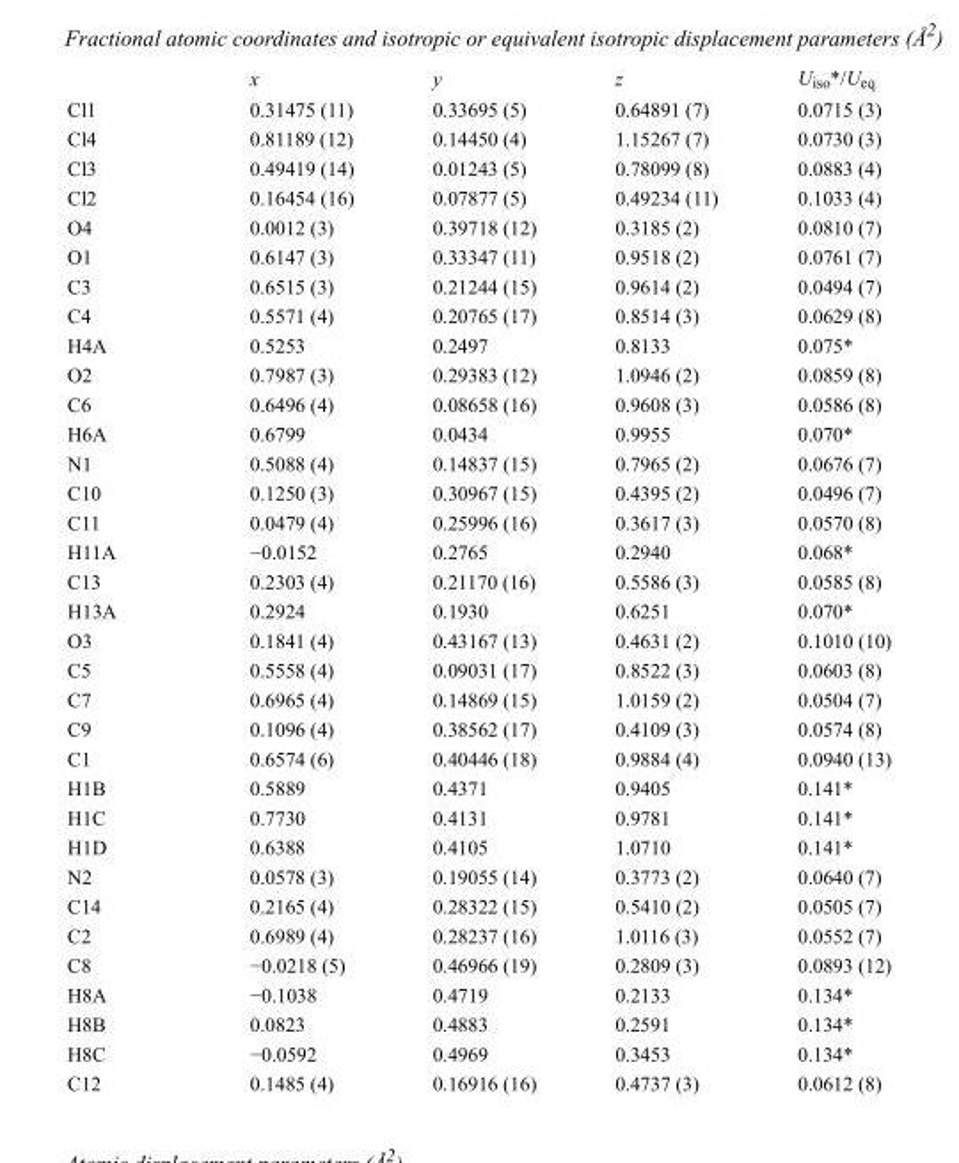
<table><thead><tr><td></td><td>x</td><td>y</td><td>z</td><td>U<sub>iso</sub>*/U<sub>eq</sub></td></tr></thead><tbody><tr><td>Cl1</td><td>0.31475 (11)</td><td>0.33695 (5)</td><td>0.64891 (7)</td><td>0.0715 (3)</td></tr><tr><td>Cl4</td><td>0.81189 (12)</td><td>0.14450 (4)</td><td>1.15267 (7)</td><td>0.0730 (3)</td></tr><tr><td>Cl3</td><td>0.49419 (14)</td><td>0.01243 (5)</td><td>0.78099 (8)</td><td>0.0883 (4)</td></tr><tr><td>Cl2</td><td>0.16454 (16)</td><td>0.07877 (5)</td><td>0.49234 (11)</td><td>0.1033 (4)</td></tr><tr><td>O4</td><td>0.0012 (3)</td><td>0.39718 (12)</td><td>0.3185 (2)</td><td>0.0810 (7)</td></tr><tr><td>O1</td><td>0.6147 (3)</td><td>0.33347 (11)</td><td>0.9518 (2)</td><td>0.0761 (7)</td></tr><tr><td>C3</td><td>0.6515 (3)</td><td>0.21244 (15)</td><td>0.9614 (2)</td><td>0.0494 (7)</td></tr><tr><td>C4</td><td>0.5571 (4)</td><td>0.20765 (17)</td><td>0.8514 (3)</td><td>0.0629 (8)</td></tr><tr><td>H4A</td><td>0.5253</td><td>0.2497</td><td>0.8133</td><td>0.075*</td></tr><tr><td>O2</td><td>0.7987 (3)</td><td>0.29383 (12)</td><td>1.0946 (2)</td><td>0.0859 (8)</td></tr><tr><td>C6</td><td>0.6496 (4)</td><td>0.08658 (16)</td><td>0.9608 (3)</td><td>0.0586 (8)</td></tr><tr><td>H6A</td><td>0.6799</td><td>0.0434</td><td>0.9955</td><td>0.070*</td></tr><tr><td>N1</td><td>0.5088 (4)</td><td>0.14837 (15)</td><td>0.7965 (2)</td><td>0.0676 (7)</td></tr><tr><td>C10</td><td>0.1250 (3)</td><td>0.30967 (15)</td><td>0.4395 (2)</td><td>0.0496 (7)</td></tr><tr><td>C11</td><td>0.0479 (4)</td><td>0.25996 (16)</td><td>0.3617 (3)</td><td>0.0570 (8)</td></tr><tr><td>H11A</td><td>−0.0152</td><td>0.2765</td><td>0.2940</td><td>0.068*</td></tr><tr><td>C13</td><td>0.2303 (4)</td><td>0.21170 (16)</td><td>0.5586 (3)</td><td>0.0585 (8)</td></tr><tr><td>H13A</td><td>0.2924</td><td>0.1930</td><td>0.6251</td><td>0.070*</td></tr><tr><td>O3</td><td>0.1841 (4)</td><td>0.43167 (13)</td><td>0.4631 (2)</td><td>0.1010 (10)</td></tr><tr><td>C5</td><td>0.5558 (4)</td><td>0.09031 (17)</td><td>0.8522 (3)</td><td>0.0603 (8)</td></tr><tr><td>C7</td><td>0.6965 (4)</td><td>0.14869 (15)</td><td>1.0159 (2)</td><td>0.0504 (7)</td></tr><tr><td>C9</td><td>0.1096 (4)</td><td>0.38562 (17)</td><td>0.4109 (3)</td><td>0.0574 (8)</td></tr><tr><td>C1</td><td>0.6574 (6)</td><td>0.40446 (18)</td><td>0.9884 (4)</td><td>0.0940 (13)</td></tr><tr><td>H1B</td><td>0.5889</td><td>0.4371</td><td>0.9405</td><td>0.141*</td></tr><tr><td>H1C</td><td>0.7730</td><td>0.4131</td><td>0.9781</td><td>0.141*</td></tr><tr><td>H1D</td><td>0.6388</td><td>0.4105</td><td>1.0710</td><td>0.141*</td></tr><tr><td>N2</td><td>0.0578 (3)</td><td>0.19055 (14)</td><td>0.3773 (2)</td><td>0.0640 (7)</td></tr><tr><td>C14</td><td>0.2165 (4)</td><td>0.28322 (15)</td><td>0.5410 (2)</td><td>0.0505 (7)</td></tr><tr><td>C2</td><td>0.6989 (4)</td><td>0.28237 (16)</td><td>1.0116 (3)</td><td>0.0552 (7)</td></tr><tr><td>C8</td><td>−0.0218 (5)</td><td>0.46966 (19)</td><td>0.2809 (3)</td><td>0.0893 (12)</td></tr><tr><td>H8A</td><td>−0.1038</td><td>0.4719</td><td>0.2133</td><td>0.134*</td></tr><tr><td>H8B</td><td>0.0823</td><td>0.4883</td><td>0.2591</td><td>0.134*</td></tr><tr><td>H8C</td><td>−0.0592</td><td>0.4969</td><td>0.3453</td><td>0.134*</td></tr><tr><td>C12</td><td>0.1485 (4)</td><td>0.16916 (16)</td><td>0.4737 (3)</td><td>0.0612 (8)</td></tr></tbody></table>